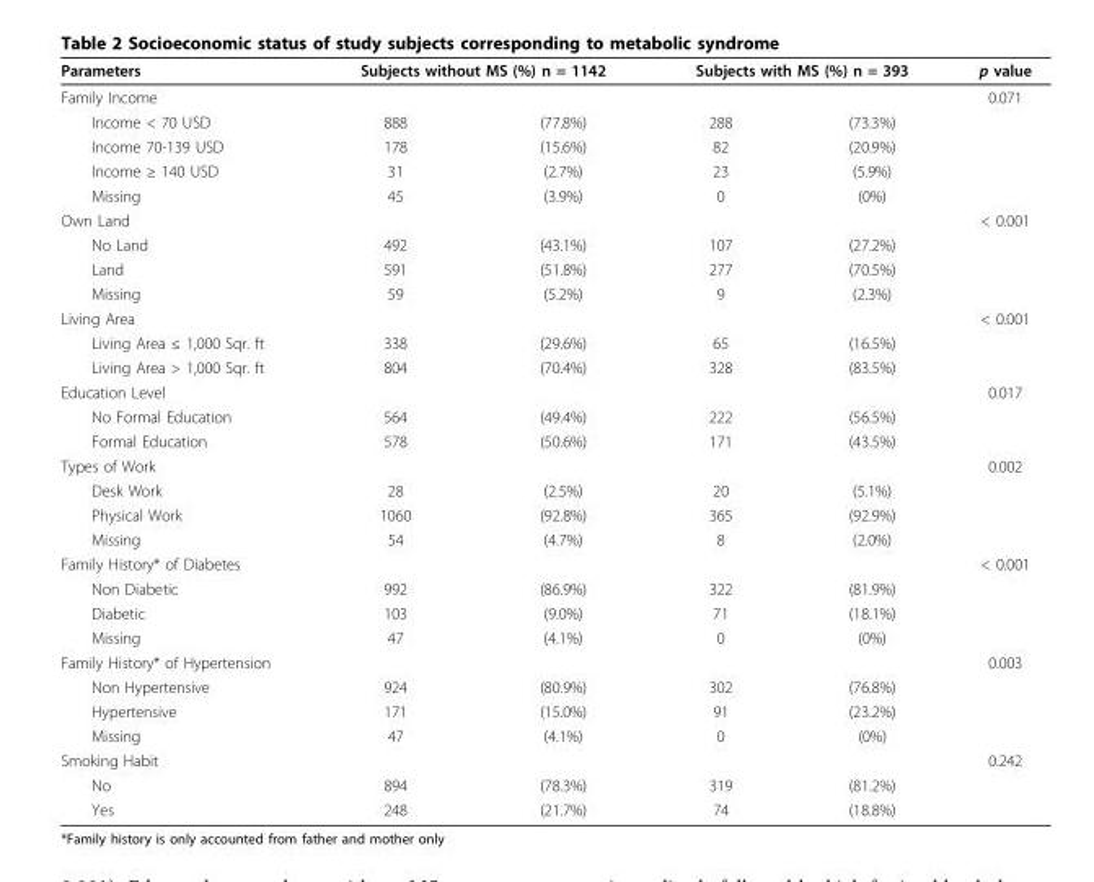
<table><thead><tr><td rowspan="2">Parameters Family Income</td><td colspan="2">Subjects without MS (%) n = 1142</td><td colspan="2">Subjects with MS (%) n = 393</td><td rowspan="2">p value 0.071</td></tr><tr><td></td><td></td><td></td><td></td></tr></thead><tbody><tr><td>Income &lt; 70 USD</td><td>888</td><td>(77.8%)</td><td>288</td><td>(73.3%)</td><td></td></tr><tr><td>Income 70-139 USD</td><td>178</td><td>(15.6%)</td><td>82</td><td>(20.9%)</td><td></td></tr><tr><td>Income ≥ 140 USD</td><td>31</td><td>(2.7%)</td><td>23</td><td>(5.9%)</td><td></td></tr><tr><td>Missing</td><td>45</td><td>(3.9%)</td><td>0</td><td>(0%)</td><td></td></tr><tr><td>Own Land</td><td></td><td></td><td></td><td></td><td>&lt; 0.001</td></tr><tr><td>No Land</td><td>492</td><td>(43.1%)</td><td>107</td><td>(27.2%)</td><td></td></tr><tr><td>Land</td><td>591</td><td>(51.8%)</td><td>277</td><td>(70.5%)</td><td></td></tr><tr><td>Missing</td><td>59</td><td>(5.2%)</td><td>9</td><td>(2.3%)</td><td></td></tr><tr><td>Living Area</td><td></td><td></td><td></td><td></td><td>&lt; 0.001</td></tr><tr><td>Living Area ≤ 1,000 Sqr. ft</td><td>338</td><td>(29.6%)</td><td>65</td><td>(16.5%)</td><td></td></tr><tr><td>Living Area &gt; 1,000 Sqr. ft</td><td>804</td><td>(70.4%)</td><td>328</td><td>(83.5%)</td><td></td></tr><tr><td>Education Level</td><td></td><td></td><td></td><td></td><td>0.017</td></tr><tr><td>No Formal Education</td><td>564</td><td>(49.4%)</td><td>222</td><td>(56.5%)</td><td></td></tr><tr><td>Formal Education</td><td>578</td><td>(50.6%)</td><td>171</td><td>(43.5%)</td><td></td></tr><tr><td>Types of Work</td><td></td><td></td><td></td><td></td><td>0.002</td></tr><tr><td>Desk Work</td><td>28</td><td>(2.5%)</td><td>20</td><td>(5.1%)</td><td></td></tr><tr><td>Physical Work</td><td>1060</td><td>(92.8%)</td><td>365</td><td>(92.9%)</td><td></td></tr><tr><td>Missing</td><td>54</td><td>(4.7%)</td><td>8</td><td>(2.0%)</td><td></td></tr><tr><td>Family History* of Diabetes</td><td></td><td></td><td></td><td></td><td>&lt; 0.001</td></tr><tr><td>Non Diabetic</td><td>992</td><td>(86.9%)</td><td>322</td><td>(81.9%)</td><td></td></tr><tr><td>Diabetic</td><td>103</td><td>(9.0%)</td><td>71</td><td>(18.1%)</td><td></td></tr><tr><td>Missing</td><td>47</td><td>(4.1%)</td><td>0</td><td>(0%)</td><td></td></tr><tr><td>Family History* of Hypertension</td><td></td><td></td><td></td><td></td><td>0.003</td></tr><tr><td>Non Hypertensive</td><td>924</td><td>(80.9%)</td><td>302</td><td>(76.8%)</td><td></td></tr><tr><td>Hypertensive</td><td>171</td><td>(15.0%)</td><td>91</td><td>(23.2%)</td><td></td></tr><tr><td>Missing</td><td>47</td><td>(4.1%)</td><td>0</td><td>(0%)</td><td></td></tr><tr><td>Smoking Habit</td><td></td><td></td><td></td><td></td><td>0.242</td></tr><tr><td>No</td><td>894</td><td>(78.3%)</td><td>319</td><td>(81.2%)</td><td></td></tr><tr><td>Yes</td><td>248</td><td>(21.7%)</td><td>74</td><td>(18.8%)</td><td></td></tr></tbody></table>